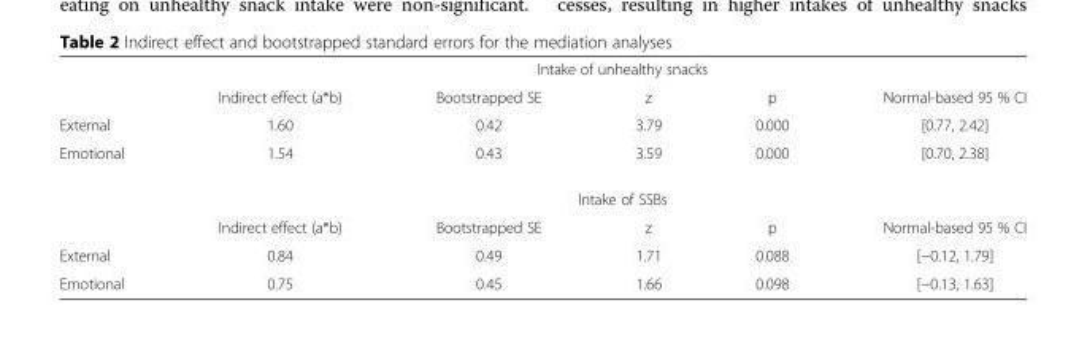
<table><thead><tr><td rowspan="2"></td><td colspan="5">Intake of unhealthy snacks</td></tr><tr><td>Indirect effect (a*b)</td><td>Bootstrapped SE</td><td>z</td><td>p</td><td>Normal-based 95 % CI</td></tr></thead><tbody><tr><td>External</td><td>1.60</td><td>0.42</td><td>3.79</td><td>0.000</td><td>[0.77, 2.42]</td></tr><tr><td rowspan="3">Emotional</td><td>1.54</td><td>0.43</td><td>3.59</td><td>0.000</td><td>[0.70, 2.38]</td></tr><tr><td colspan="5">Intake of SSBs</td></tr><tr><td>Indirect effect (a*b)</td><td>Bootstrapped SE</td><td>z</td><td>p</td><td>Normal-based 95 % CI</td></tr><tr><td>External</td><td>0.84</td><td>0.49</td><td>1.71</td><td>0.088</td><td>[−0.12, 1.79]</td></tr><tr><td>Emotional</td><td>0.75</td><td>0.45</td><td>1.66</td><td>0.098</td><td>[−0.13, 1.63]</td></tr></tbody></table>